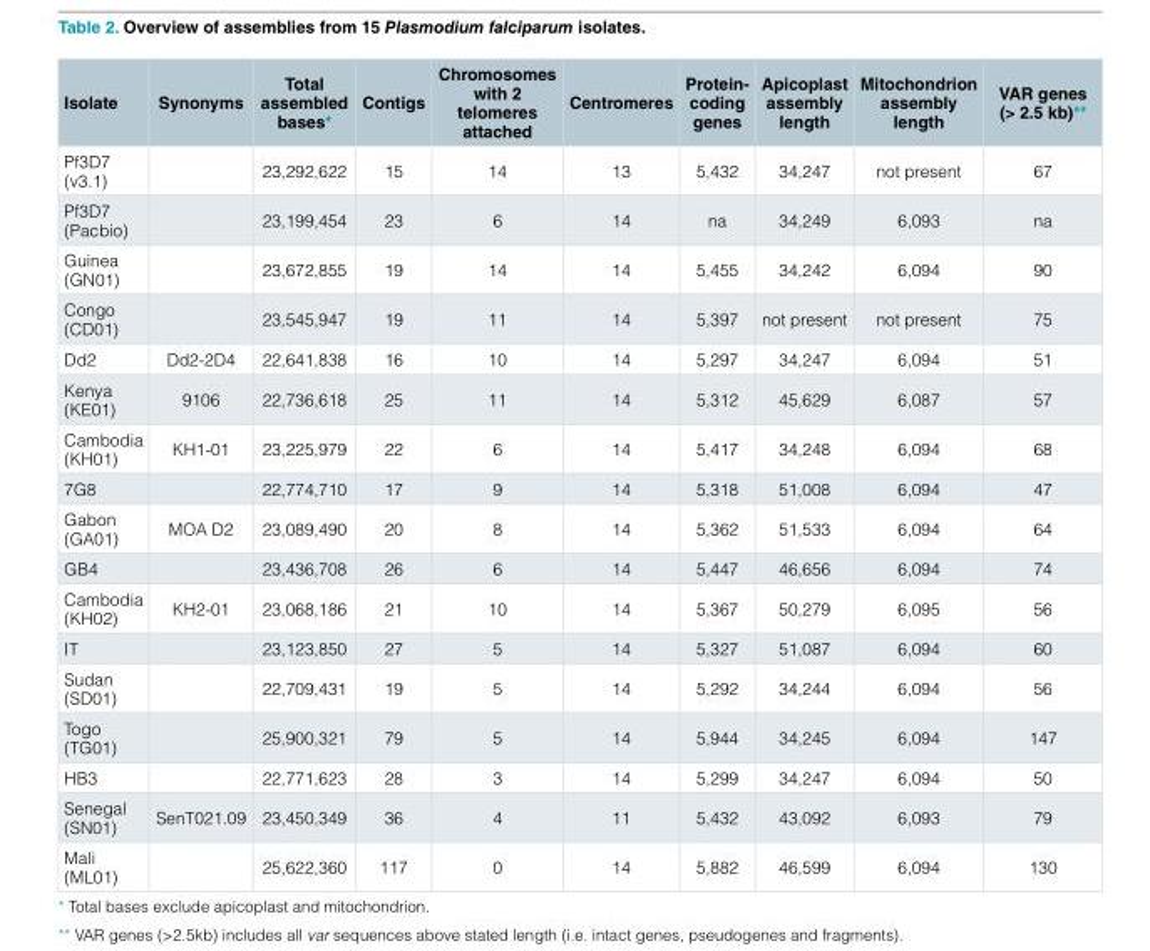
<table><thead><tr><td>Isolate</td><td>Synonyms</td><td>Total assembled bases*</td><td>Contigs</td><td>Chromosomes with 2 telomeres attached</td><td>Centromeres</td><td>Protein- coding genes</td><td>Apicoplast assembly length</td><td>Mitochondrion assembly length</td><td>VAR genes (&gt; 2.5 kb)**</td></tr></thead><tbody><tr><td>Pf3D7 (v3.1)</td><td></td><td>23,292,622</td><td>15</td><td>14</td><td>13</td><td>5,432</td><td>34,247</td><td>not present</td><td>67</td></tr><tr><td>Pf3D7 (Pacbio)</td><td></td><td>23,199,454</td><td>23</td><td>6</td><td>14</td><td>na</td><td>34,249</td><td>6,093</td><td>na</td></tr><tr><td>Guinea (GN01)</td><td></td><td>23,672,855</td><td>19</td><td>14</td><td>14</td><td>5,455</td><td>34,242</td><td>6,094</td><td>90</td></tr><tr><td>Congo (CD01)</td><td></td><td>23,545,947</td><td>19</td><td>11</td><td>14</td><td>5,397</td><td>not present</td><td>not present</td><td>75</td></tr><tr><td>Dd2</td><td>Dd2-2D4</td><td>22,641,838</td><td>16</td><td>10</td><td>14</td><td>5,297</td><td>34,247</td><td>6,094</td><td>51</td></tr><tr><td>Kenya (KE01)</td><td>9106</td><td>22,736,618</td><td>25</td><td>11</td><td>14</td><td>5,312</td><td>45,629</td><td>6,087</td><td>57</td></tr><tr><td>Cambodia (KH01)</td><td>KH1-01</td><td>23,225,979</td><td>22</td><td>6</td><td>14</td><td>5,417</td><td>34,248</td><td>6,094</td><td>68</td></tr><tr><td>7G8</td><td></td><td>22,774,710</td><td>17</td><td>9</td><td>14</td><td>5,318</td><td>51,008</td><td>6,094</td><td>47</td></tr><tr><td>Gabon (GA01)</td><td>MOA D2</td><td>23,089,490</td><td>20</td><td>8</td><td>14</td><td>5,362</td><td>51,533</td><td>6,094</td><td>64</td></tr><tr><td>GB4</td><td></td><td>23,436,708</td><td>26</td><td>6</td><td>14</td><td>5,447</td><td>46,656</td><td>6,094</td><td>74</td></tr><tr><td>Cambodia (KH02)</td><td>KH2-01</td><td>23,068,186</td><td>21</td><td>10</td><td>14</td><td>5,367</td><td>50,279</td><td>6,095</td><td>56</td></tr><tr><td>IT</td><td></td><td>23,123,850</td><td>27</td><td>5</td><td>14</td><td>5,327</td><td>51,087</td><td>6,094</td><td>60</td></tr><tr><td>Sudan (SD01)</td><td></td><td>22,709,431</td><td>19</td><td>5</td><td>14</td><td>5,292</td><td>34,244</td><td>6,094</td><td>56</td></tr><tr><td>Togo (TG01)</td><td></td><td>25,900,321</td><td>79</td><td>5</td><td>14</td><td>5,944</td><td>34,245</td><td>6,094</td><td>147</td></tr><tr><td>HB3</td><td></td><td>22,771,623</td><td>28</td><td>3</td><td>14</td><td>5,299</td><td>34,247</td><td>6,094</td><td>50</td></tr><tr><td>Senegal (SN01)</td><td>SenT021.09</td><td>23,450,349</td><td>36</td><td>4</td><td>11</td><td>5,432</td><td>43,092</td><td>6,093</td><td>79</td></tr><tr><td>Mali (ML01)</td><td></td><td>25,622,360</td><td>117</td><td>0</td><td>14</td><td>5,882</td><td>46,599</td><td>6,094</td><td>130</td></tr></tbody></table>